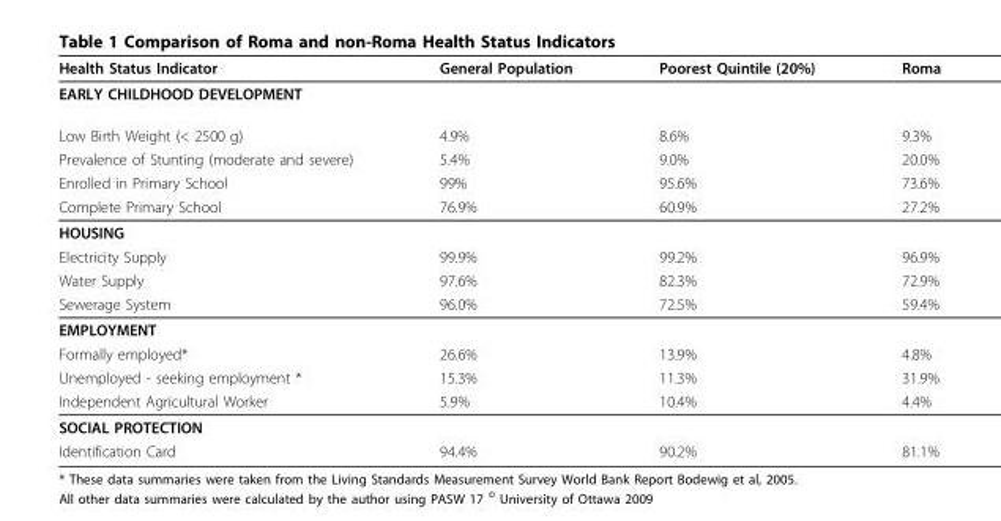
<table><thead><tr><td>Health Status Indicator</td><td>General Population</td><td>Poorest Quintile (20%)</td><td>Roma</td></tr></thead><tbody><tr><td colspan="4">EARLY CHILDHOOD DEVELOPMENT</td></tr><tr><td>Low Birth Weight (&lt; 2500 g)</td><td>4.9%</td><td>8.6%</td><td>9.3%</td></tr><tr><td>Prevalence of Stunting (moderate and severe)</td><td>5.4%</td><td>9.0%</td><td>20.0%</td></tr><tr><td>Enrolled in Primary School</td><td>99%</td><td>95.6%</td><td>73.6%</td></tr><tr><td>Complete Primary School</td><td>76.9%</td><td>60.9%</td><td>27.2%</td></tr><tr><td colspan="4">HOUSING</td></tr><tr><td>Electricity Supply</td><td>99.9%</td><td>99.2%</td><td>96.9%</td></tr><tr><td>Water Supply</td><td>97.6%</td><td>82.3%</td><td>72.9%</td></tr><tr><td>Sewerage System</td><td>96.0%</td><td>72.5%</td><td>59.4%</td></tr><tr><td colspan="4">EMPLOYMENT</td></tr><tr><td>Formally employed*</td><td>26.6%</td><td>13.9%</td><td>4.8%</td></tr><tr><td>Unemployed - seeking employment *</td><td>15.3%</td><td>11.3%</td><td>31.9%</td></tr><tr><td>Independent Agricultural Worker</td><td>5.9%</td><td>10.4%</td><td>4.4%</td></tr><tr><td colspan="4">SOCIAL PROTECTION</td></tr><tr><td>Identification Card</td><td>94.4%</td><td>90.2%</td><td>81.1%</td></tr></tbody></table>